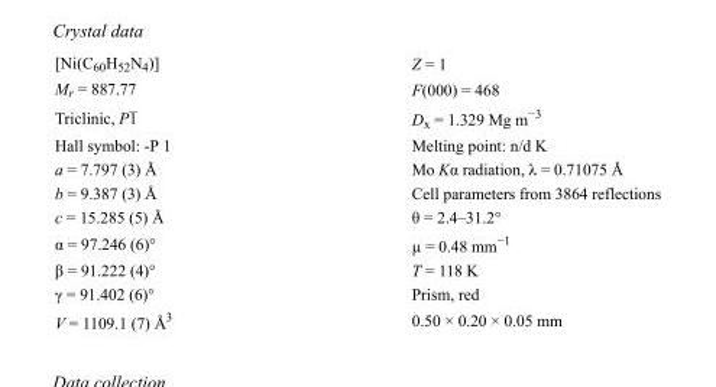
<table><tbody><tr><td>[Ni(C<sub>60</sub>H<sub>52</sub>N<sub>4</sub>)]</td><td>Z = 1</td></tr><tr><td>M<sub>r</sub> = 887.77</td><td>F(000) = 468</td></tr><tr><td>Triclinic, P1</td><td>D<sub>x</sub> = 1.329 Mg m<sup>−3</sup></td></tr><tr><td>Hall symbol: -P 1</td><td>Melting point: n/d K</td></tr><tr><td>a = 7.797 (3) Å</td><td>Mo Kα radiation, λ = 0.71075 Å</td></tr><tr><td>b = 9.387 (3) Å</td><td>Cell parameters from 3864 reflections</td></tr><tr><td>c = 15.285 (5) Å</td><td>θ = 2.4–31.2°</td></tr><tr><td>α = 97.246 (6)°</td><td>µ = 0.48 mm<sup>−1</sup></td></tr><tr><td>β = 91.222 (4)°</td><td>T = 118 K</td></tr><tr><td>γ = 91.402 (6)°</td><td>Prism, red</td></tr><tr><td>V = 1109.1 (7) Å<sup>3</sup></td><td>0.50 × 0.20 × 0.05 mm</td></tr></tbody></table>